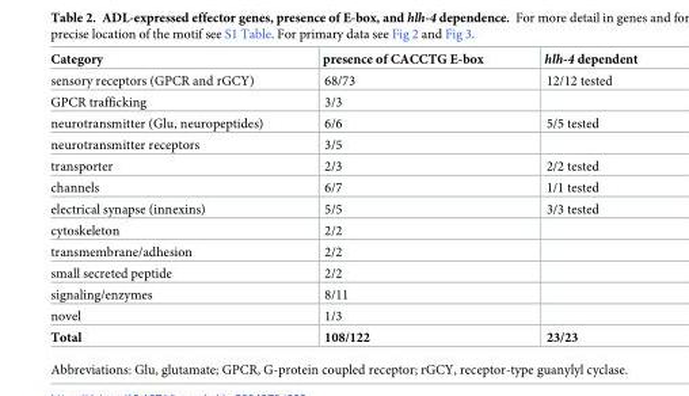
<table><thead><tr><td>Category</td><td>presence of CACCTG E-box</td><td>hlh-4 dependent</td></tr></thead><tbody><tr><td>sensory receptors (GPCR and rGCY)</td><td>68/73</td><td>12/12 tested</td></tr><tr><td>GPCR trafficking</td><td>3/3</td><td></td></tr><tr><td>neurotransmitter (Glu, neuropeptides)</td><td>6/6</td><td>5/5 tested</td></tr><tr><td>neurotransmitter receptors</td><td>3/5</td><td></td></tr><tr><td>transporter</td><td>2/3</td><td>2/2 tested</td></tr><tr><td>channels</td><td>6/7</td><td>1/1 tested</td></tr><tr><td>electrical synapse (innexins)</td><td>5/5</td><td>3/3 tested</td></tr><tr><td>cytoskeleton</td><td>2/2</td><td></td></tr><tr><td>transmembrane/adhesion</td><td>2/2</td><td></td></tr><tr><td>small secreted peptide</td><td>2/2</td><td></td></tr><tr><td>signaling/enzymes</td><td>8/11</td><td></td></tr><tr><td>novel</td><td>1/3</td><td></td></tr><tr><td>Total</td><td>108/122</td><td>23/23</td></tr></tbody></table>